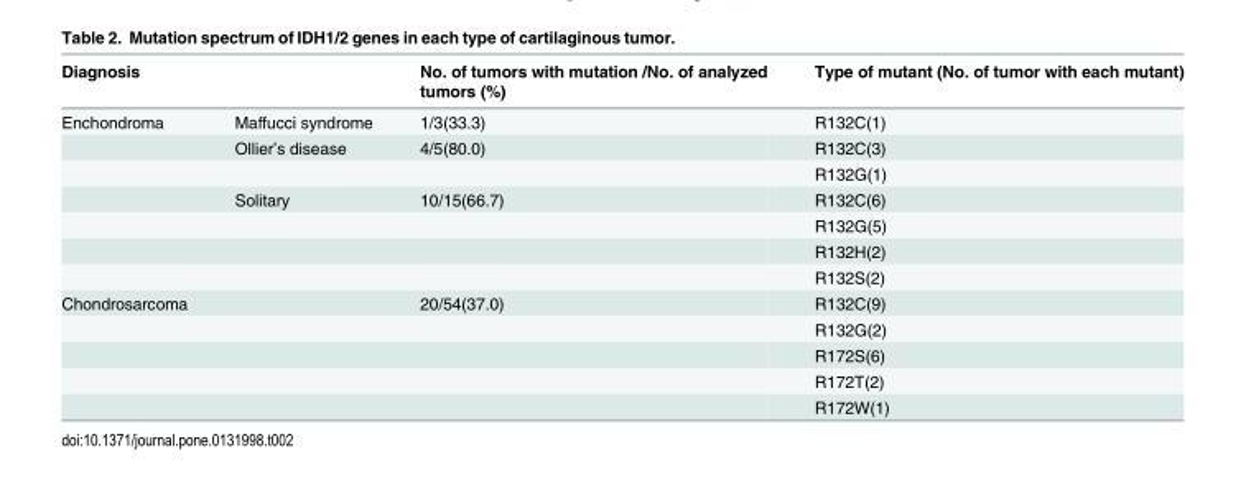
<table><thead><tr><td>Diagnosis</td><td></td><td>No. of tumors with mutation /No. of analyzed tumors (%)</td><td>Type of mutant (No. of tumor with each mutant)</td></tr></thead><tbody><tr><td rowspan="7">Enchondroma</td><td>Maffucci syndrome</td><td>1/3(33.3)</td><td>R132C(1)</td></tr><tr><td>Ollier’s disease</td><td>4/5(80.0)</td><td>R132C(3)</td></tr><tr><td></td><td></td><td>R132G(1)</td></tr><tr><td>Solitary</td><td>10/15(66.7)</td><td>R132C(6)</td></tr><tr><td></td><td></td><td>R132G(5)</td></tr><tr><td></td><td></td><td>R132H(2)</td></tr><tr><td></td><td></td><td>R132S(2)</td></tr><tr><td rowspan="5">Chondrosarcoma</td><td></td><td>20/54(37.0)</td><td>R132C(9)</td></tr><tr><td></td><td></td><td>R132G(2)</td></tr><tr><td></td><td></td><td>R172S(6)</td></tr><tr><td></td><td></td><td>R172T(2)</td></tr><tr><td></td><td></td><td>R172W(1)</td></tr></tbody></table>